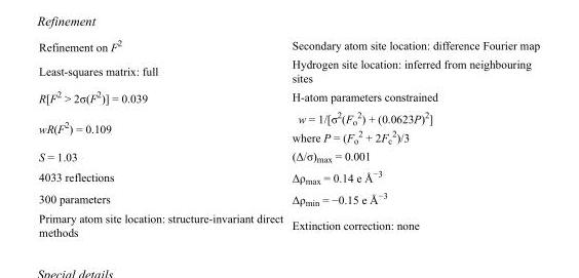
<table><tbody><tr><td>Refinement on F<sup>2</sup></td><td>Secondary atom site location: difference Fourier map</td></tr><tr><td>Least-squares matrix: full</td><td>Hydrogen site location: inferred from neighbouring sites</td></tr><tr><td>R[F<sup>2</sup> &gt; 2σ(F<sup>2</sup>)] = 0.039</td><td>H-atom parameters constrained</td></tr><tr><td>wR(F<sup>2</sup>) = 0.109</td><td>w = 1/[σ<sup>2</sup>(F<sub>o</sub> <sup>2</sup>) + (0.0623P)<sup>2</sup>] where P = (F<sub>o</sub> <sup>2</sup> + 2F<sub>c</sub> <sup>2</sup>)/3</td></tr><tr><td>S = 1.03</td><td>(Δ/σ)<sub>max</sub> = 0.001</td></tr><tr><td>4033 reflections</td><td>Δρ<sub>max</sub> = 0.14 e Å<sup>−3</sup></td></tr><tr><td>300 parameters</td><td>Δρ<sub>min</sub> = −0.15 e Å<sup>−3</sup></td></tr><tr><td>Primary atom site location: structure-invariant direct methods</td><td>Extinction correction: none</td></tr></tbody></table>